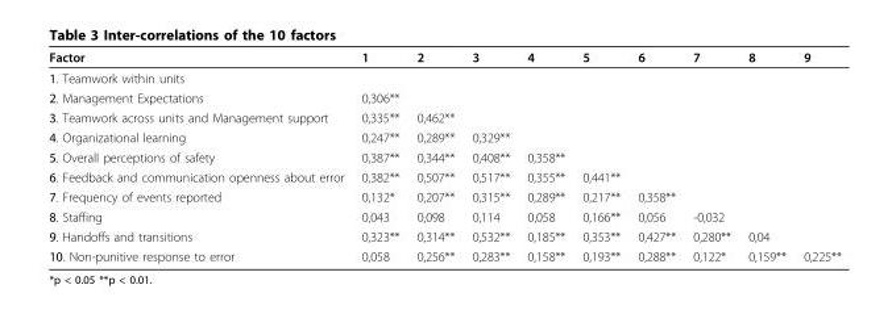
<table><thead><tr><td>Factor</td><td>1</td><td>2</td><td>3</td><td>4</td><td>5</td><td>6</td><td>7</td><td>8</td><td>9</td></tr></thead><tbody><tr><td colspan="10">1. Teamwork within units</td></tr><tr><td>2. Management Expectations</td><td>0,306**</td><td></td><td></td><td></td><td></td><td></td><td></td><td></td><td></td></tr><tr><td>3. Teamwork across units and Management support</td><td>0,335**</td><td>0,462**</td><td></td><td></td><td></td><td></td><td></td><td></td><td></td></tr><tr><td>4. Organizational learning</td><td>0,247**</td><td>0,289**</td><td>0,329**</td><td></td><td></td><td></td><td></td><td></td><td></td></tr><tr><td>5. Overall perceptions of safety</td><td>0,387**</td><td>0,344**</td><td>0,408**</td><td>0,358**</td><td></td><td></td><td></td><td></td><td></td></tr><tr><td>6. Feedback and communication openness about error</td><td>0,382**</td><td>0,507**</td><td>0,517**</td><td>0,355**</td><td>0,441**</td><td></td><td></td><td></td><td></td></tr><tr><td>7. Frequency of events reported</td><td>0,132*</td><td>0,207**</td><td>0,315**</td><td>0,289**</td><td>0,217**</td><td>0,358**</td><td></td><td></td><td></td></tr><tr><td>8. Staffing</td><td>0,043</td><td>0,098</td><td>0,114</td><td>0,058</td><td>0,166**</td><td>0,056</td><td>-0,032</td><td></td><td></td></tr><tr><td>9. Handoffs and transitions</td><td>0,323**</td><td>0,314**</td><td>0,532**</td><td>0,185**</td><td>0,353**</td><td>0,427**</td><td>0,280**</td><td>0,04</td><td></td></tr><tr><td>10. Non-punitive response to error</td><td>0,058</td><td>0,256**</td><td>0,283**</td><td>0,158**</td><td>0,193**</td><td>0,288**</td><td>0,122*</td><td>0,159**</td><td>0,225**</td></tr></tbody></table>